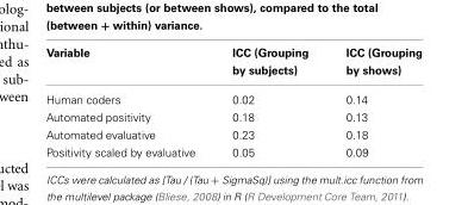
<table><thead><tr><td rowspan="2">Variable</td><td rowspan="2">ICC (Grouping by subjects)</td><td rowspan="2">ICC (Grouping by shows)</td></tr><tr></tr></thead><tbody><tr><td>Human coders</td><td>0.02</td><td>0.14</td></tr><tr><td>Automated positivity</td><td>0.18</td><td>0.13</td></tr><tr><td>Automated evaluative</td><td>0.23</td><td>0.18</td></tr><tr><td>Positivity scaled by evaluative</td><td>0.05</td><td>0.09</td></tr></tbody></table>